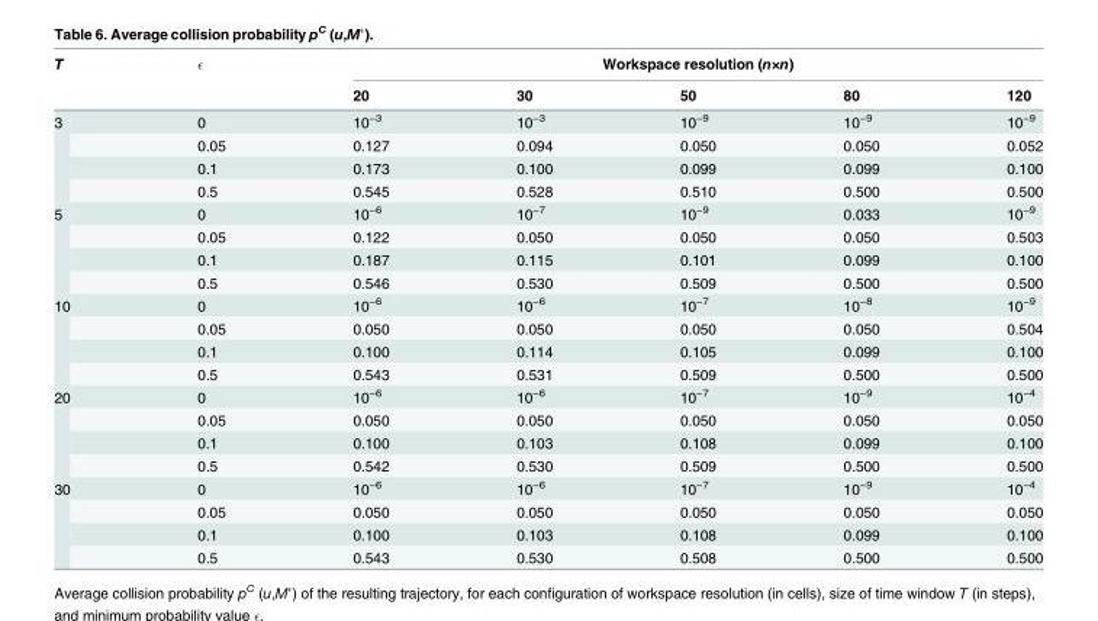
<table><thead><tr><td rowspan="2">T</td><td rowspan="2">ɛ</td><td colspan="5">Workspace resolution (n×n)</td></tr><tr><td>20</td><td>30</td><td>50</td><td>80</td><td>120</td></tr></thead><tbody><tr><td rowspan="4">3</td><td>0</td><td>10<sup>−3</sup></td><td>10<sup>−3</sup></td><td>10<sup>−9</sup></td><td>10<sup>−9</sup></td><td>10<sup>−9</sup></td></tr><tr><td>0.05</td><td>0.127</td><td>0.094</td><td>0.050</td><td>0.050</td><td>0.052</td></tr><tr><td>0.1</td><td>0.173</td><td>0.100</td><td>0.099</td><td>0.099</td><td>0.100</td></tr><tr><td>0.5</td><td>0.545</td><td>0.528</td><td>0.510</td><td>0.500</td><td>0.500</td></tr><tr><td rowspan="4">5</td><td>0</td><td>10<sup>−6</sup></td><td>10<sup>−7</sup></td><td>10<sup>−9</sup></td><td>0.033</td><td>10<sup>−9</sup></td></tr><tr><td>0.05</td><td>0.122</td><td>0.050</td><td>0.050</td><td>0.050</td><td>0.503</td></tr><tr><td>0.1</td><td>0.187</td><td>0.115</td><td>0.101</td><td>0.099</td><td>0.100</td></tr><tr><td>0.5</td><td>0.546</td><td>0.530</td><td>0.509</td><td>0.500</td><td>0.500</td></tr><tr><td rowspan="4">10</td><td>0</td><td>10<sup>−6</sup></td><td>10<sup>−6</sup></td><td>10<sup>−7</sup></td><td>10<sup>−8</sup></td><td>10<sup>−9</sup></td></tr><tr><td>0.05</td><td>0.050</td><td>0.050</td><td>0.050</td><td>0.050</td><td>0.504</td></tr><tr><td>0.1</td><td>0.100</td><td>0.114</td><td>0.105</td><td>0.099</td><td>0.100</td></tr><tr><td>0.5</td><td>0.543</td><td>0.531</td><td>0.509</td><td>0.500</td><td>0.500</td></tr><tr><td rowspan="4">20</td><td>0</td><td>10<sup>−6</sup></td><td>10<sup>−6</sup></td><td>10<sup>−7</sup></td><td>10<sup>−9</sup></td><td>10<sup>−4</sup></td></tr><tr><td>0.05</td><td>0.050</td><td>0.050</td><td>0.050</td><td>0.050</td><td>0.050</td></tr><tr><td>0.1</td><td>0.100</td><td>0.103</td><td>0.108</td><td>0.099</td><td>0.100</td></tr><tr><td>0.5</td><td>0.542</td><td>0.530</td><td>0.509</td><td>0.500</td><td>0.500</td></tr><tr><td rowspan="4">30</td><td>0</td><td>10<sup>−6</sup></td><td>10<sup>−6</sup></td><td>10<sup>−7</sup></td><td>10<sup>−9</sup></td><td>10<sup>−4</sup></td></tr><tr><td>0.05</td><td>0.050</td><td>0.050</td><td>0.050</td><td>0.050</td><td>0.050</td></tr><tr><td>0.1</td><td>0.100</td><td>0.103</td><td>0.108</td><td>0.099</td><td>0.100</td></tr><tr><td>0.5</td><td>0.543</td><td>0.530</td><td>0.508</td><td>0.500</td><td>0.500</td></tr></tbody></table>